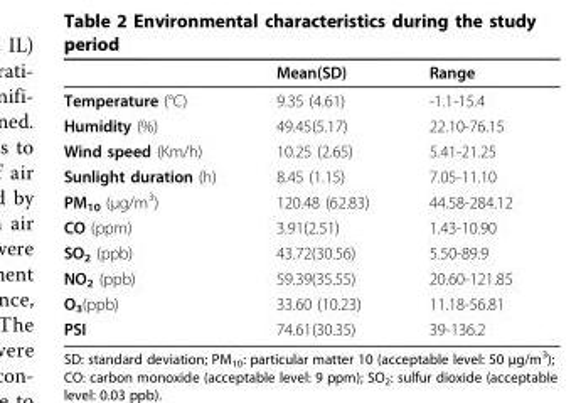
<table><thead><tr><td></td><td>Mean(SD)</td><td>Range</td></tr></thead><tbody><tr><td>Temperature (°C)</td><td>9.35 (4.61)</td><td>-1.1-15.4</td></tr><tr><td>Humidity (%)</td><td>49.45(5.17)</td><td>22.10-76.15</td></tr><tr><td>Wind speed (Km/h)</td><td>10.25 (2.65)</td><td>5.41-21.25</td></tr><tr><td>Sunlight duration (h)</td><td>8.45 (1.15)</td><td>7.05-11.10</td></tr><tr><td>PM<sub>10</sub> (μg/m<sup>3</sup>)</td><td>120.48 (62.83)</td><td>44.58-284.12</td></tr><tr><td>CO (ppm)</td><td>3.91(2.51)</td><td>1.43-10.90</td></tr><tr><td>SO<sub>2</sub> (ppb)</td><td>43.72(30.56)</td><td>5.50-89.9</td></tr><tr><td>NO<sub>2</sub> (ppb)</td><td>59.39(35.55)</td><td>20.60-121.85</td></tr><tr><td>O<sub>3</sub>(ppb)</td><td>33.60 (10.23)</td><td>11.18-56.81</td></tr><tr><td>PSI</td><td>74.61(30.35)</td><td>39-136.2</td></tr></tbody></table>